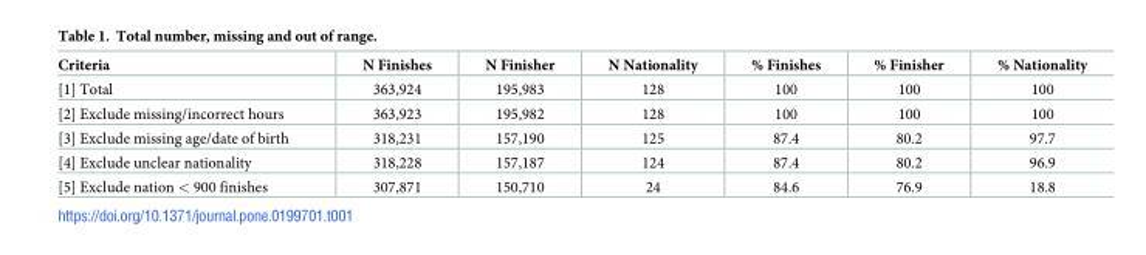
<table><thead><tr><td>Criteria</td><td>N Finishes</td><td>N Finisher</td><td>N Nationality</td><td>% Finishes</td><td>% Finisher</td><td>% Nationality</td></tr></thead><tbody><tr><td>[1] Total</td><td>363,924</td><td>195,983</td><td>128</td><td>100</td><td>100</td><td>100</td></tr><tr><td>[2] Exclude missing/incorrect hours</td><td>363,923</td><td>195,982</td><td>128</td><td>100</td><td>100</td><td>100</td></tr><tr><td>[3] Exclude missing age/date of birth</td><td>318,231</td><td>157,190</td><td>125</td><td>87.4</td><td>80.2</td><td>97.7</td></tr><tr><td>[4] Exclude unclear nationality</td><td>318,228</td><td>157,187</td><td>124</td><td>87.4</td><td>80.2</td><td>96.9</td></tr><tr><td>[5] Exclude nation &lt; 900 finishes</td><td>307,871</td><td>150,710</td><td>24</td><td>84.6</td><td>76.9</td><td>18.8</td></tr></tbody></table>